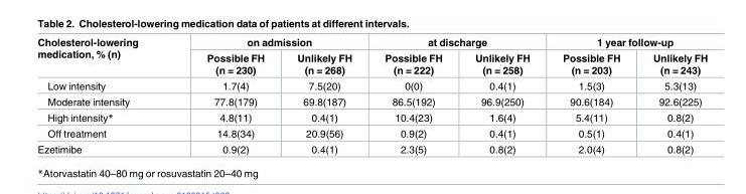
<table><thead><tr><td rowspan="2">Cholesterol-lowering medication, % (n)</td><td colspan="2">on admission</td><td colspan="2">at discharge</td><td colspan="2">1 year follow-up</td></tr><tr><td>Possible FH (n = 230)</td><td>Unlikely FH (n = 268)</td><td>Possible FH (n = 222)</td><td>Unlikely FH (n = 258)</td><td>Possible FH (n = 203)</td><td>Unlikely FH (n = 243)</td></tr></thead><tbody><tr><td>Low intensity</td><td>1.7(4)</td><td>7.5(20)</td><td>0(0)</td><td>0.4(1)</td><td>1.5(3)</td><td>5.3(13)</td></tr><tr><td>Moderate intensity</td><td>77.8(179)</td><td>69.8(187)</td><td>86.5(192)</td><td>96.9(250)</td><td>90.6(184)</td><td>92.6(225)</td></tr><tr><td>High intensity*</td><td>4.8(11)</td><td>0.4(1)</td><td>10.4(23)</td><td>1.6(4)</td><td>5.4(11)</td><td>0.8(2)</td></tr><tr><td>Off treatment</td><td>14.8(34)</td><td>20.9(56)</td><td>0.9(2)</td><td>0.4(1)</td><td>0.5(1)</td><td>0.4(1)</td></tr><tr><td>Ezetimibe</td><td>0.9(2)</td><td>0.4(1)</td><td>2.3(5)</td><td>0.8(2)</td><td>2.0(4)</td><td>0.8(2)</td></tr></tbody></table>